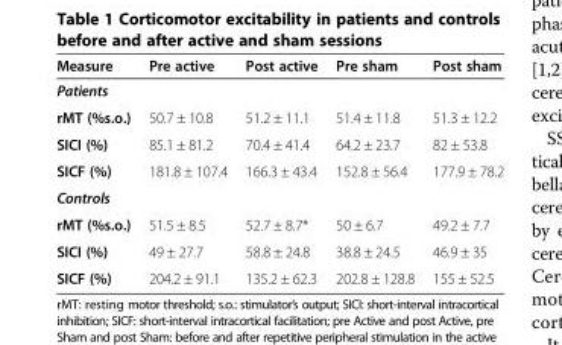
<table><thead><tr><td>Measure</td><td>Pre active</td><td>Post active</td><td>Pre sham</td><td>Post sham</td></tr></thead><tbody><tr><td colspan="5">Patients</td></tr><tr><td>rMT (%s.o.)</td><td>50.7 ± 10.8</td><td>51.2 ± 11.1</td><td>51.4 ± 11.8</td><td>51.3 ± 12.2</td></tr><tr><td>SICI (%)</td><td>85.1 ± 81.2</td><td>70.4 ± 41.4</td><td>64.2 ± 23.7</td><td>82 ± 53.8</td></tr><tr><td>SICF (%)</td><td>181.8 ± 107.4</td><td>166.3 ± 43.4</td><td>152.8 ± 56.4</td><td>177.9 ± 78.2</td></tr><tr><td colspan="5">Controls</td></tr><tr><td>rMT (%s.o.)</td><td>51.5 ± 8.5</td><td>52.7 ± 8.7*</td><td>50 ± 6.7</td><td>49.2 ± 7.7</td></tr><tr><td>SICI (%)</td><td>49 ± 27.7</td><td>58.8 ± 24.8</td><td>38.8 ± 24.5</td><td>46.9 ± 35</td></tr><tr><td>SICF (%)</td><td>204.2 ± 91.1</td><td>135.2 ± 62.3</td><td>202.8 ± 128.8</td><td>155 ± 52.5</td></tr></tbody></table>